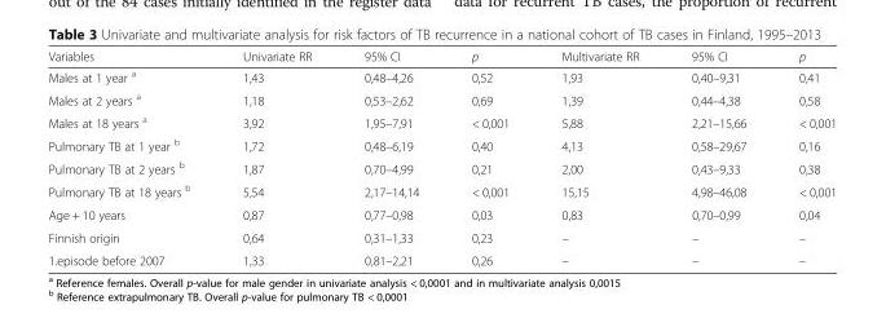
<table><thead><tr><td>Variables</td><td>Univariate RR</td><td>95% CI</td><td>p</td><td>Multivariate RR</td><td>95% CI</td><td>p</td></tr></thead><tbody><tr><td>Males at 1 year <sup>a</sup></td><td>1,43</td><td>0,48–4,26</td><td>0,52</td><td>1,93</td><td>0,40–9,31</td><td>0,41</td></tr><tr><td>Males at 2 years <sup>a</sup></td><td>1,18</td><td>0,53–2,62</td><td>0,69</td><td>1,39</td><td>0,44–4,38</td><td>0,58</td></tr><tr><td>Males at 18 years <sup>a</sup></td><td>3,92</td><td>1,95–7,91</td><td>&lt; 0,001</td><td>5,88</td><td>2,21–15,66</td><td>&lt; 0,001</td></tr><tr><td>Pulmonary TB at 1 year <sup>b</sup></td><td>1,72</td><td>0,48–6,19</td><td>0,40</td><td>4,13</td><td>0,58–29,67</td><td>0,16</td></tr><tr><td>Pulmonary TB at 2 years <sup>b</sup></td><td>1,87</td><td>0,70–4,99</td><td>0,21</td><td>2,00</td><td>0,43–9,33</td><td>0,38</td></tr><tr><td>Pulmonary TB at 18 years <sup>b</sup></td><td>5,54</td><td>2,17–14,14</td><td>&lt; 0,001</td><td>15,15</td><td>4,98–46,08</td><td>&lt; 0,001</td></tr><tr><td>Age + 10 years</td><td>0,87</td><td>0,77–0,98</td><td>0,03</td><td>0,83</td><td>0,70–0,99</td><td>0,04</td></tr><tr><td>Finnish origin</td><td>0,64</td><td>0,31–1,33</td><td>0,23</td><td>–</td><td>–</td><td>–</td></tr><tr><td>1.episode before 2007</td><td>1,33</td><td>0,81–2,21</td><td>0,26</td><td>–</td><td>–</td><td>–</td></tr></tbody></table>